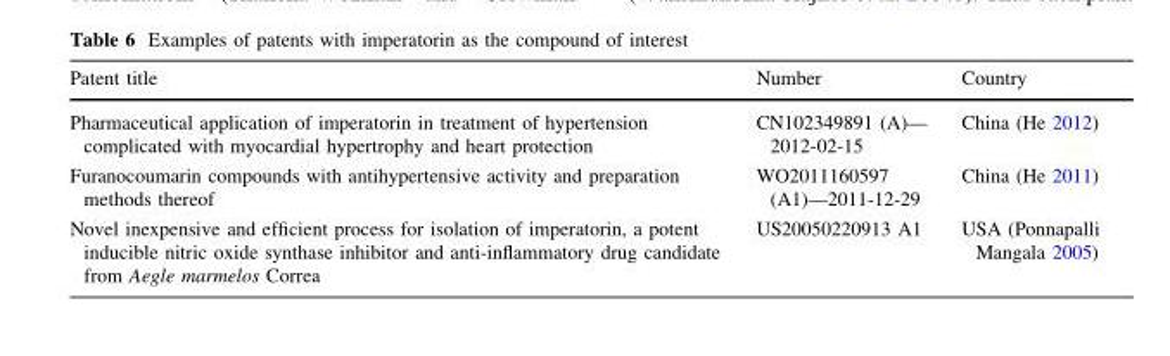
<table><thead><tr><td>Patent title</td><td>Number</td><td>Country</td></tr></thead><tbody><tr><td>Pharmaceutical application of imperatorin in treatment of hypertension complicated with myocardial hypertrophy and heart protection</td><td>CN102349891 (A)— 2012-02-15</td><td>China (He 2012)</td></tr><tr><td>Furanocoumarin compounds with antihypertensive activity and preparation methods thereof</td><td>WO2011160597 (A1)—2011-12-29</td><td>China (He 2011)</td></tr><tr><td>Novel inexpensive and efficient process for isolation of imperatorin, a potent inducible nitric oxide synthase inhibitor and anti-inflammatory drug candidate from Aegle marmelos Correa</td><td>US20050220913 A1</td><td>USA (Ponnapalli Mangala 2005)</td></tr></tbody></table>